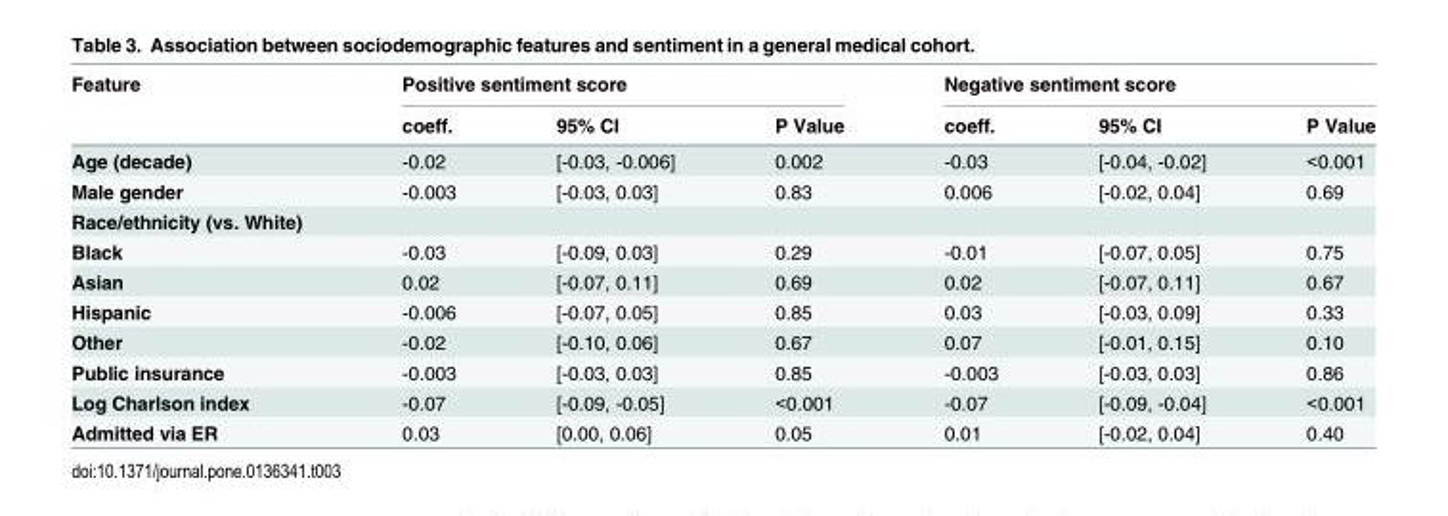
<table><thead><tr><td rowspan="2">Feature</td><td colspan="3">Positive sentiment score</td><td colspan="3">Negative sentiment score</td></tr><tr><td>coeff.</td><td>95% CI</td><td>P Value</td><td>coeff.</td><td>95% CI</td><td>P Value</td></tr></thead><tbody><tr><td>Age (decade)</td><td>-0.02</td><td>[-0.03, -0.006]</td><td>0.002</td><td>-0.03</td><td>[-0.04, -0.02]</td><td>&lt;0.001</td></tr><tr><td>Male gender</td><td>-0.003</td><td>[-0.03, 0.03]</td><td>0.83</td><td>0.006</td><td>[-0.02, 0.04]</td><td>0.69</td></tr><tr><td colspan="7">Race/ethnicity (vs. White)</td></tr><tr><td>Black</td><td>-0.03</td><td>[-0.09, 0.03]</td><td>0.29</td><td>-0.01</td><td>[-0.07, 0.05]</td><td>0.75</td></tr><tr><td>Asian</td><td>0.02</td><td>[-0.07, 0.11]</td><td>0.69</td><td>0.02</td><td>[-0.07, 0.11]</td><td>0.67</td></tr><tr><td>Hispanic</td><td>-0.006</td><td>[-0.07, 0.05]</td><td>0.85</td><td>0.03</td><td>[-0.03, 0.09]</td><td>0.33</td></tr><tr><td>Other</td><td>-0.02</td><td>[-0.10, 0.06]</td><td>0.67</td><td>0.07</td><td>[-0.01, 0.15]</td><td>0.10</td></tr><tr><td>Public insurance</td><td>-0.003</td><td>[-0.03, 0.03]</td><td>0.85</td><td>-0.003</td><td>[-0.03, 0.03]</td><td>0.86</td></tr><tr><td>Log Charlson index</td><td>-0.07</td><td>[-0.09, -0.05]</td><td>&lt;0.001</td><td>-0.07</td><td>[-0.09, -0.04]</td><td>&lt;0.001</td></tr><tr><td>Admitted via ER</td><td>0.03</td><td>[0.00, 0.06]</td><td>0.05</td><td>0.01</td><td>[-0.02, 0.04]</td><td>0.40</td></tr></tbody></table>